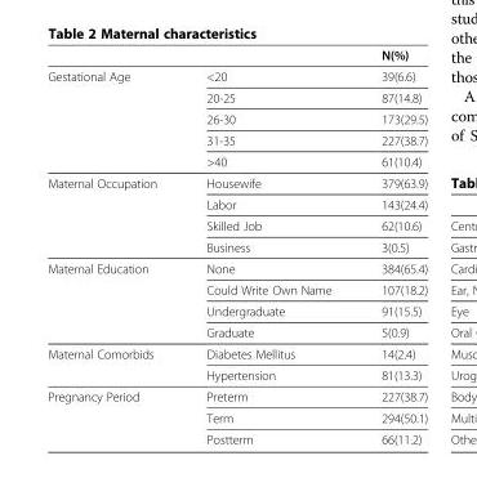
<table><thead><tr><td></td><td></td><td>N(%)</td></tr></thead><tbody><tr><td rowspan="5">Gestational Age</td><td>&lt;20</td><td>39(6.6)</td></tr><tr><td>20-25</td><td>87(14.8)</td></tr><tr><td>26-30</td><td>173(29.5)</td></tr><tr><td>31-35</td><td>227(38.7)</td></tr><tr><td>&gt;40</td><td>61(10.4)</td></tr><tr><td rowspan="4">Maternal Occupation</td><td>Housewife</td><td>379(63.9)</td></tr><tr><td>Labor</td><td>143(24.4)</td></tr><tr><td>Skilled Job</td><td>62(10.6)</td></tr><tr><td>Business</td><td>3(0.5)</td></tr><tr><td rowspan="4">Maternal Education</td><td>None</td><td>384(65.4)</td></tr><tr><td>Could Write Own Name</td><td>107(18.2)</td></tr><tr><td>Undergraduate</td><td>91(15.5)</td></tr><tr><td>Graduate</td><td>5(0.9)</td></tr><tr><td rowspan="2">Maternal Comorbids</td><td>Diabetes Mellitus</td><td>14(2.4)</td></tr><tr><td>Hypertension</td><td>81(13.3)</td></tr><tr><td rowspan="3">Pregnancy Period</td><td>Preterm</td><td>227(38.7)</td></tr><tr><td>Term</td><td>294(50.1)</td></tr><tr><td>Postterm</td><td>66(11.2)</td></tr></tbody></table>